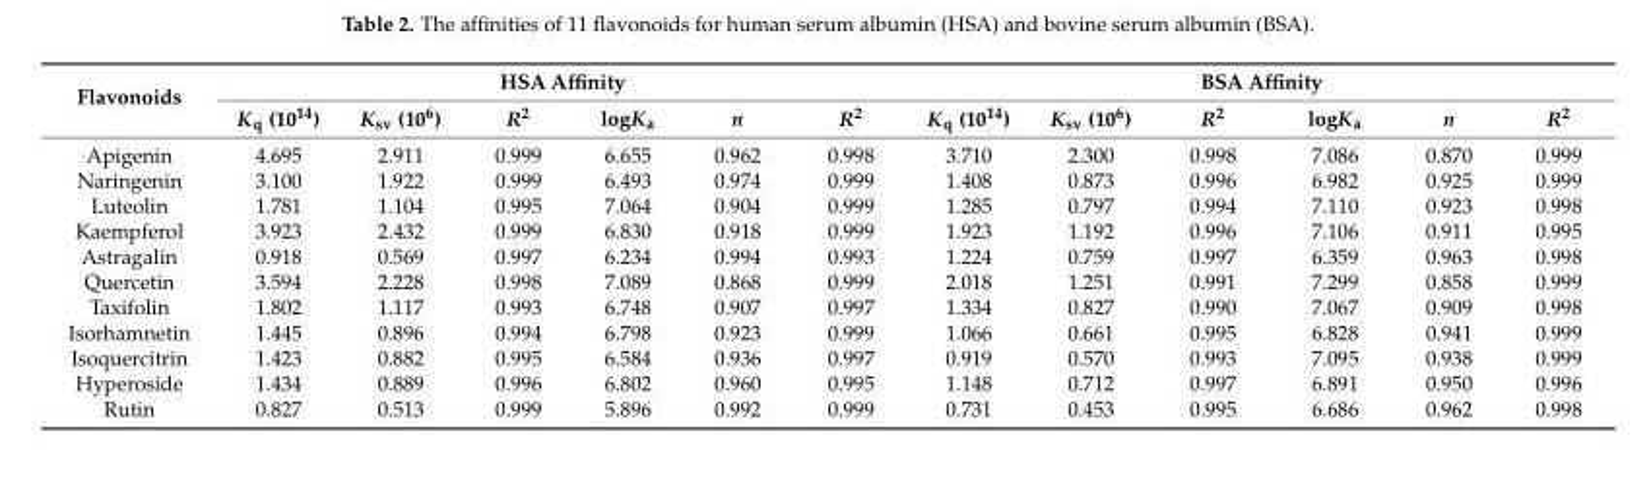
<table><thead><tr><td rowspan="2">Flavonoids</td><td colspan="6">HSA Affinity</td><td colspan="6">BSA Affinity</td></tr><tr><td>K<sub>q</sub> (10<sup>14</sup>)</td><td>K<sub>sv</sub> (10<sup>6</sup>)</td><td>R<sup>2</sup></td><td>logK<sub>a</sub></td><td>n</td><td>R<sup>2</sup></td><td>K<sub>q</sub> (10<sup>14</sup>)</td><td>K<sub>sv</sub> (10<sup>6</sup>)</td><td>R<sup>2</sup></td><td>logK<sub>a</sub></td><td>n</td><td>R<sup>2</sup></td></tr></thead><tbody><tr><td>Apigenin</td><td>4.695</td><td>2.911</td><td>0.999</td><td>6.655</td><td>0.962</td><td>0.998</td><td>3.710</td><td>2.300</td><td>0.998</td><td>7.086</td><td>0.870</td><td>0.999</td></tr><tr><td>Naringenin</td><td>3.100</td><td>1.922</td><td>0.999</td><td>6.493</td><td>0.974</td><td>0.999</td><td>1.408</td><td>0.873</td><td>0.996</td><td>6.982</td><td>0.925</td><td>0.999</td></tr><tr><td>Luteolin</td><td>1.781</td><td>1.104</td><td>0.995</td><td>7.064</td><td>0.904</td><td>0.999</td><td>1.285</td><td>0.797</td><td>0.994</td><td>7.110</td><td>0.923</td><td>0.998</td></tr><tr><td>Kaempferol</td><td>3.923</td><td>2.432</td><td>0.999</td><td>6.830</td><td>0.918</td><td>0.999</td><td>1.923</td><td>1.192</td><td>0.996</td><td>7.106</td><td>0.911</td><td>0.995</td></tr><tr><td>Astragalin</td><td>0.918</td><td>0.569</td><td>0.997</td><td>6.234</td><td>0.994</td><td>0.993</td><td>1.224</td><td>0.759</td><td>0.997</td><td>6.359</td><td>0.963</td><td>0.998</td></tr><tr><td>Quercetin</td><td>3.594</td><td>2.228</td><td>0.998</td><td>7.089</td><td>0.868</td><td>0.999</td><td>2.018</td><td>1.251</td><td>0.991</td><td>7.299</td><td>0.858</td><td>0.999</td></tr><tr><td>Taxifolin</td><td>1.802</td><td>1.117</td><td>0.993</td><td>6.748</td><td>0.907</td><td>0.997</td><td>1.334</td><td>0.827</td><td>0.990</td><td>7.067</td><td>0.909</td><td>0.998</td></tr><tr><td>Isorhamnetin</td><td>1.445</td><td>0.896</td><td>0.994</td><td>6.798</td><td>0.923</td><td>0.999</td><td>1.066</td><td>0.661</td><td>0.995</td><td>6.828</td><td>0.941</td><td>0.999</td></tr><tr><td>Isoquercitrin</td><td>1.423</td><td>0.882</td><td>0.995</td><td>6.584</td><td>0.936</td><td>0.997</td><td>0.919</td><td>0.570</td><td>0.993</td><td>7.095</td><td>0.938</td><td>0.999</td></tr><tr><td>Hyperoside</td><td>1.434</td><td>0.889</td><td>0.996</td><td>6.802</td><td>0.960</td><td>0.995</td><td>1.148</td><td>0.712</td><td>0.997</td><td>6.891</td><td>0.950</td><td>0.996</td></tr><tr><td>Rutin</td><td>0.827</td><td>0.513</td><td>0.999</td><td>5.896</td><td>0.992</td><td>0.999</td><td>0.731</td><td>0.453</td><td>0.995</td><td>6.686</td><td>0.962</td><td>0.998</td></tr></tbody></table>